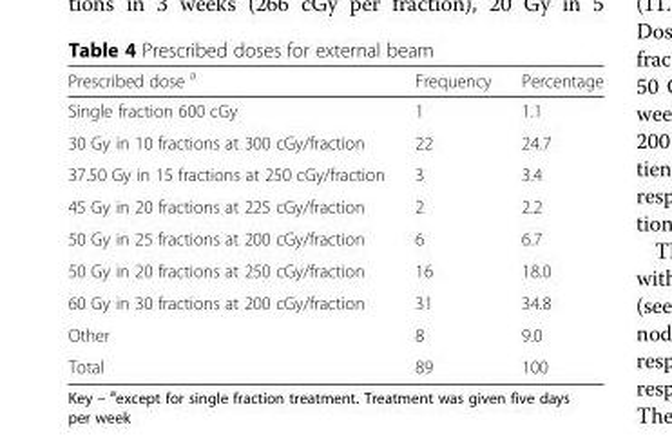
<table><thead><tr><td>Prescribed dose <sup>a</sup></td><td>Frequency</td><td>Percentage</td></tr></thead><tbody><tr><td>Single fraction 600 cGy</td><td>1</td><td>1.1</td></tr><tr><td>30 Gy in 10 fractions at 300 cGy/fraction</td><td>22</td><td>24.7</td></tr><tr><td>37.50 Gy in 15 fractions at 250 cGy/fraction</td><td>3</td><td>3.4</td></tr><tr><td>45 Gy in 20 fractions at 225 cGy/fraction</td><td>2</td><td>2.2</td></tr><tr><td>50 Gy in 25 fractions at 200 cGy/fraction</td><td>6</td><td>6.7</td></tr><tr><td>50 Gy in 20 fractions at 250 cGy/fraction</td><td>16</td><td>18.0</td></tr><tr><td>60 Gy in 30 fractions at 200 cGy/fraction</td><td>31</td><td>34.8</td></tr><tr><td>Other</td><td>8</td><td>9.0</td></tr><tr><td>Total</td><td>89</td><td>100</td></tr></tbody></table>